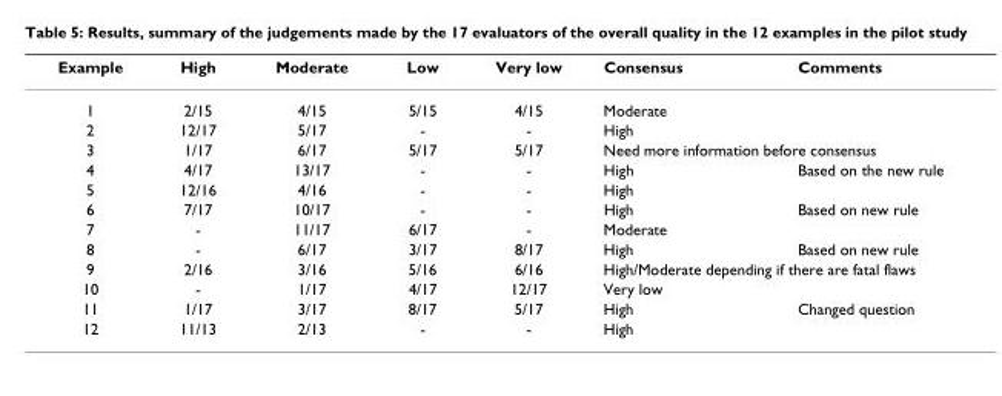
<table><thead><tr><td>Example</td><td>High</td><td>Moderate</td><td>Low</td><td>Very low</td><td>Consensus</td><td>Comments</td></tr></thead><tbody><tr><td>1</td><td>2/15</td><td>4/15</td><td>5/15</td><td>4/15</td><td>Moderate</td><td></td></tr><tr><td>2</td><td>12/17</td><td>5/17</td><td>-</td><td>-</td><td>High</td><td></td></tr><tr><td>3</td><td>1/17</td><td>6/17</td><td>5/17</td><td>5/17</td><td colspan="2">Need more information before consensus</td></tr><tr><td>4</td><td>4/17</td><td>13/17</td><td>-</td><td>-</td><td>High</td><td>Based on the new rule</td></tr><tr><td>5</td><td>12/16</td><td>4/16</td><td>-</td><td>-</td><td>High</td><td></td></tr><tr><td>6</td><td>7/17</td><td>10/17</td><td>-</td><td>-</td><td>High</td><td>Based on new rule</td></tr><tr><td>7</td><td>-</td><td>11/17</td><td>6/17</td><td>-</td><td>Moderate</td><td></td></tr><tr><td>8</td><td>-</td><td>6/17</td><td>3/17</td><td>8/17</td><td>High</td><td>Based on new rule</td></tr><tr><td>9</td><td>2/16</td><td>3/16</td><td>5/16</td><td>6/16</td><td colspan="2">High/Moderate depending if there are fatal flaws</td></tr><tr><td>10</td><td>-</td><td>1/17</td><td>4/17</td><td>12/17</td><td>Very low</td><td></td></tr><tr><td>11</td><td>1/17</td><td>3/17</td><td>8/17</td><td>5/17</td><td>High</td><td>Changed question</td></tr><tr><td>12</td><td>11/13</td><td>2/13</td><td>-</td><td>-</td><td>High</td><td></td></tr></tbody></table>